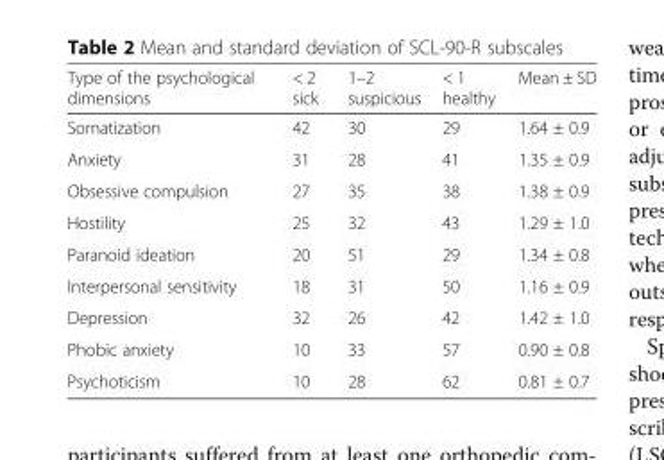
<table><thead><tr><td>Type of the psychological dimensions</td><td>&lt; 2 sick</td><td>1–2 suspicious</td><td>&lt; 1 healthy</td><td>Mean ± SD</td></tr></thead><tbody><tr><td>Somatization</td><td>42</td><td>30</td><td>29</td><td>1.64 ± 0.9</td></tr><tr><td>Anxiety</td><td>31</td><td>28</td><td>41</td><td>1.35 ± 0.9</td></tr><tr><td>Obsessive compulsion</td><td>27</td><td>35</td><td>38</td><td>1.38 ± 0.9</td></tr><tr><td>Hostility</td><td>25</td><td>32</td><td>43</td><td>1.29 ± 1.0</td></tr><tr><td>Paranoid ideation</td><td>20</td><td>51</td><td>29</td><td>1.34 ± 0.8</td></tr><tr><td>Interpersonal sensitivity</td><td>18</td><td>31</td><td>50</td><td>1.16 ± 0.9</td></tr><tr><td>Depression</td><td>32</td><td>26</td><td>42</td><td>1.42 ± 1.0</td></tr><tr><td>Phobic anxiety</td><td>10</td><td>33</td><td>57</td><td>0.90 ± 0.8</td></tr><tr><td>Psychoticism</td><td>10</td><td>28</td><td>62</td><td>0.81 ± 0.7</td></tr></tbody></table>